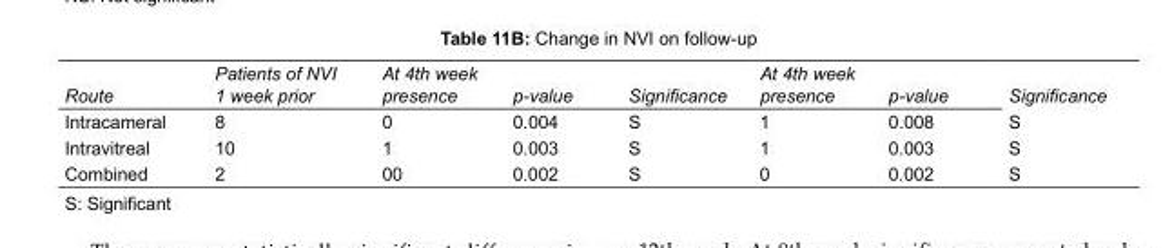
<table><tbody><tr><td>Route</td><td>Patients of NVI 1 week prior</td><td>At 4th week presence</td><td>p-value</td><td>Significance</td><td>At 4th week presence</td><td>p-value</td><td>Significance</td></tr><tr><td>Intracameral</td><td>8</td><td>0</td><td>0.004</td><td>S</td><td>1</td><td>0.008</td><td>S</td></tr><tr><td>Intravitreal</td><td>10</td><td>1</td><td>0.003</td><td>S</td><td>1</td><td>0.003</td><td>S</td></tr><tr><td>Combined</td><td>2</td><td>00</td><td>0.002</td><td>S</td><td>0</td><td>0.002</td><td>S</td></tr></tbody></table>